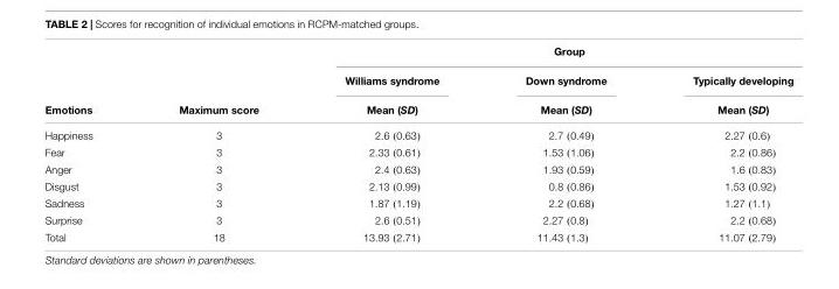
<table><thead><tr><td rowspan="3">Emotions</td><td rowspan="3">Maximum score</td><td colspan="3">Group</td></tr><tr><td rowspan="2">Williams syndrome Mean (SD)</td><td rowspan="2">Down syndrome Mean (SD)</td><td rowspan="2">Typically developing Mean (SD)</td></tr><tr></tr></thead><tbody><tr><td>Happiness</td><td>3</td><td>2.6 (0.63)</td><td>2.7 (0.49)</td><td>2.27 (0.6)</td></tr><tr><td>Fear</td><td>3</td><td>2.33 (0.61)</td><td>1.53 (1.06)</td><td>2.2 (0.86)</td></tr><tr><td>Anger</td><td>3</td><td>2.4 (0.63)</td><td>1.93 (0.59)</td><td>1.6 (0.83)</td></tr><tr><td>Disgust</td><td>3</td><td>2.13 (0.99)</td><td>0.8 (0.86)</td><td>1.53 (0.92)</td></tr><tr><td>Sadness</td><td>3</td><td>1.87 (1.19)</td><td>2.2 (0.68)</td><td>1.27 (1.1)</td></tr><tr><td>Surprise</td><td>3</td><td>2.6 (0.51)</td><td>2.27 (0.8)</td><td>2.2 (0.68)</td></tr><tr><td>Total</td><td>18</td><td>13.93 (2.71)</td><td>11.43 (1.3)</td><td>11.07 (2.79)</td></tr></tbody></table>